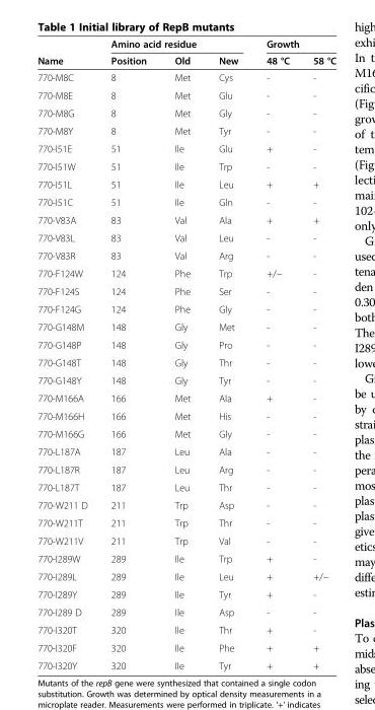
<table><thead><tr><td rowspan="2">Name</td><td colspan="3">Amino acid residue</td><td colspan="2">Growth</td></tr><tr><td>Position</td><td>Old</td><td>New</td><td>48 °C</td><td>58 °C</td></tr></thead><tbody><tr><td>770-M8C</td><td>8</td><td>Met</td><td>Cys</td><td>-</td><td>-</td></tr><tr><td>770-M8E</td><td>8</td><td>Met</td><td>Glu</td><td>-</td><td>-</td></tr><tr><td>770-M8G</td><td>8</td><td>Met</td><td>Gly</td><td>-</td><td>-</td></tr><tr><td>770-M8Y</td><td>8</td><td>Met</td><td>Tyr</td><td>-</td><td>-</td></tr><tr><td>770-I51E</td><td>51</td><td>Ile</td><td>Glu</td><td>+</td><td>-</td></tr><tr><td>770-I51W</td><td>51</td><td>Ile</td><td>Trp</td><td>-</td><td>-</td></tr><tr><td>770-I51L</td><td>51</td><td>Ile</td><td>Leu</td><td>+</td><td>+</td></tr><tr><td>770-I51C</td><td>51</td><td>Ile</td><td>Gln</td><td>-</td><td>-</td></tr><tr><td>770-V83A</td><td>83</td><td>Val</td><td>Ala</td><td>+</td><td>+</td></tr><tr><td>770-V83L</td><td>83</td><td>Val</td><td>Leu</td><td>-</td><td>-</td></tr><tr><td>770-V83R</td><td>83</td><td>Val</td><td>Arg</td><td>-</td><td>-</td></tr><tr><td>770-F124W</td><td>124</td><td>Phe</td><td>Trp</td><td>+/−</td><td>-</td></tr><tr><td>770-F124S</td><td>124</td><td>Phe</td><td>Ser</td><td>-</td><td>-</td></tr><tr><td>770-F124G</td><td>124</td><td>Phe</td><td>Gly</td><td>-</td><td>-</td></tr><tr><td>770-G148M</td><td>148</td><td>Gly</td><td>Met</td><td>-</td><td>-</td></tr><tr><td>770-G148P</td><td>148</td><td>Gly</td><td>Pro</td><td>-</td><td>-</td></tr><tr><td>770-G148T</td><td>148</td><td>Gly</td><td>Thr</td><td>-</td><td>-</td></tr><tr><td>770-G148Y</td><td>148</td><td>Gly</td><td>Tyr</td><td>-</td><td>-</td></tr><tr><td>770-M166A</td><td>166</td><td>Met</td><td>Ala</td><td>+</td><td>-</td></tr><tr><td>770-M166H</td><td>166</td><td>Met</td><td>His</td><td>-</td><td>-</td></tr><tr><td>770-M166G</td><td>166</td><td>Met</td><td>Gly</td><td>-</td><td>-</td></tr><tr><td>770-L187A</td><td>187</td><td>Leu</td><td>Ala</td><td>-</td><td>-</td></tr><tr><td>770-L187R</td><td>187</td><td>Leu</td><td>Arg</td><td>-</td><td>-</td></tr><tr><td>770-L187T</td><td>187</td><td>Leu</td><td>Thr</td><td>-</td><td>-</td></tr><tr><td>770-W211 D</td><td>211</td><td>Trp</td><td>Asp</td><td>-</td><td>-</td></tr><tr><td>770-W211T</td><td>211</td><td>Trp</td><td>Thr</td><td>-</td><td>-</td></tr><tr><td>770-W211V</td><td>211</td><td>Trp</td><td>Val</td><td>-</td><td>-</td></tr><tr><td>770-I289W</td><td>289</td><td>Ile</td><td>Trp</td><td>+</td><td>-</td></tr><tr><td>770-I289L</td><td>289</td><td>Ile</td><td>Leu</td><td>+</td><td>+/−</td></tr><tr><td>770-I289Y</td><td>289</td><td>Ile</td><td>Tyr</td><td>+</td><td>-</td></tr><tr><td>770-I289 D</td><td>289</td><td>Ile</td><td>Asp</td><td>-</td><td>-</td></tr><tr><td>770-I320T</td><td>320</td><td>Ile</td><td>Thr</td><td>+</td><td>-</td></tr><tr><td>770-I320F</td><td>320</td><td>Ile</td><td>Phe</td><td>+</td><td>+</td></tr><tr><td>770-I320Y</td><td>320</td><td>Ile</td><td>Tyr</td><td>+</td><td>+</td></tr></tbody></table>